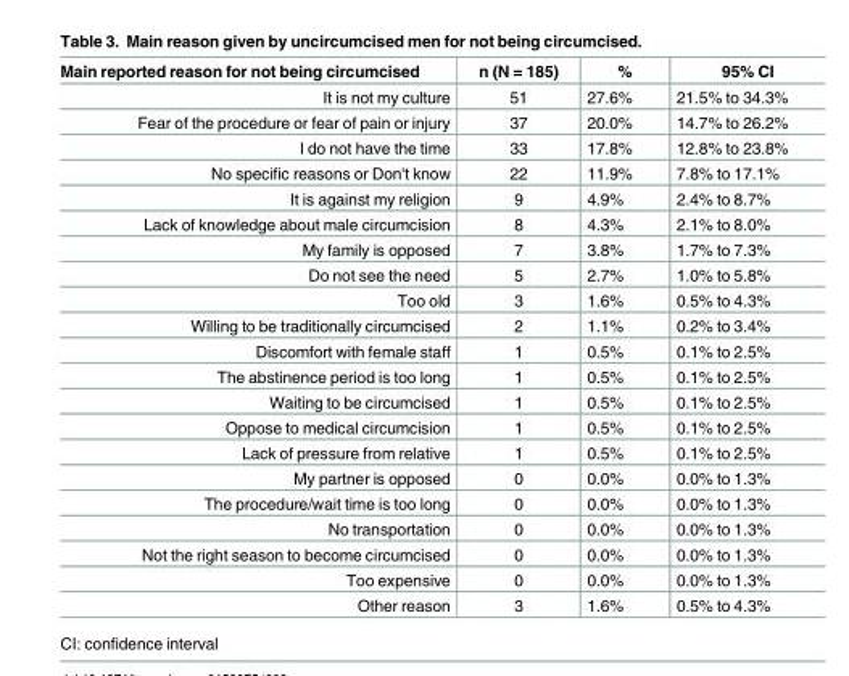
<table><thead><tr><td>Main reported reason for not being circumcised</td><td>n (N = 185)</td><td>%</td><td>95% CI</td></tr></thead><tbody><tr><td>It is not my culture</td><td>51</td><td>27.6%</td><td>21.5% to 34.3%</td></tr><tr><td>Fear of the procedure or fear of pain or injury</td><td>37</td><td>20.0%</td><td>14.7% to 26.2%</td></tr><tr><td>I do not have the time</td><td>33</td><td>17.8%</td><td>12.8% to 23.8%</td></tr><tr><td>No specific reasons or Don&#x27;t know</td><td>22</td><td>11.9%</td><td>7.8% to 17.1%</td></tr><tr><td>It is against my religion</td><td>9</td><td>4.9%</td><td>2.4% to 8.7%</td></tr><tr><td>Lack of knowledge about male circumcision</td><td>8</td><td>4.3%</td><td>2.1% to 8.0%</td></tr><tr><td>My family is opposed</td><td>7</td><td>3.8%</td><td>1.7% to 7.3%</td></tr><tr><td>Do not see the need</td><td>5</td><td>2.7%</td><td>1.0% to 5.8%</td></tr><tr><td>Too old</td><td>3</td><td>1.6%</td><td>0.5% to 4.3%</td></tr><tr><td>Willing to be traditionally circumcised</td><td>2</td><td>1.1%</td><td>0.2% to 3.4%</td></tr><tr><td>Discomfort with female staff</td><td>1</td><td>0.5%</td><td>0.1% to 2.5%</td></tr><tr><td>The abstinence period is too long</td><td>1</td><td>0.5%</td><td>0.1% to 2.5%</td></tr><tr><td>Waiting to be circumcised</td><td>1</td><td>0.5%</td><td>0.1% to 2.5%</td></tr><tr><td>Oppose to medical circumcision</td><td>1</td><td>0.5%</td><td>0.1% to 2.5%</td></tr><tr><td>Lack of pressure from relative</td><td>1</td><td>0.5%</td><td>0.1% to 2.5%</td></tr><tr><td>My partner is opposed</td><td>0</td><td>0.0%</td><td>0.0% to 1.3%</td></tr><tr><td>The procedure/wait time is too long</td><td>0</td><td>0.0%</td><td>0.0% to 1.3%</td></tr><tr><td>No transportation</td><td>0</td><td>0.0%</td><td>0.0% to 1.3%</td></tr><tr><td>Not the right season to become circumcised</td><td>0</td><td>0.0%</td><td>0.0% to 1.3%</td></tr><tr><td>Too expensive</td><td>0</td><td>0.0%</td><td>0.0% to 1.3%</td></tr><tr><td>Other reason</td><td>3</td><td>1.6%</td><td>0.5% to 4.3%</td></tr></tbody></table>